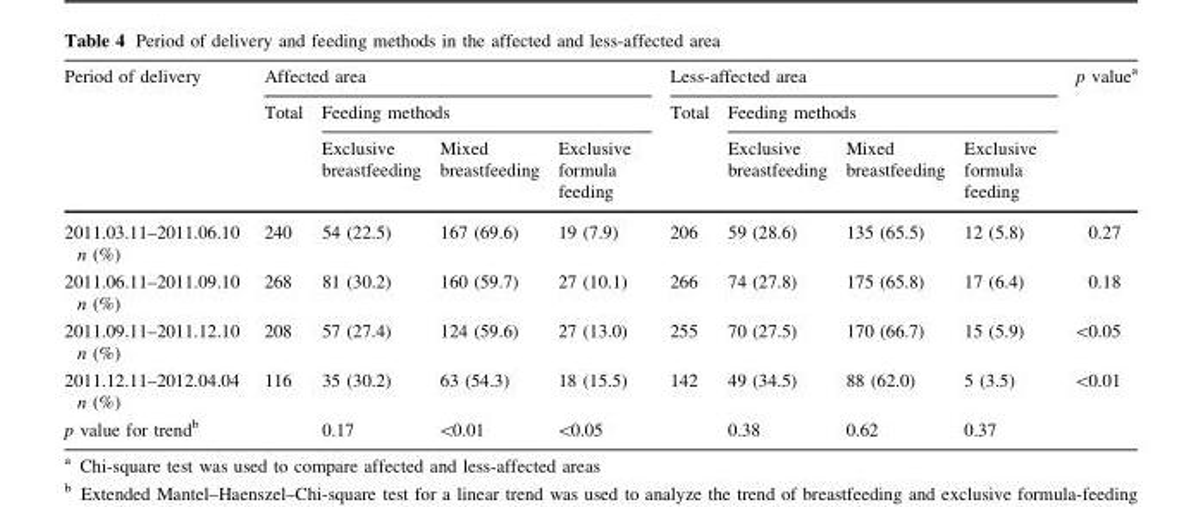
<table><thead><tr><td rowspan="3">Period of delivery</td><td colspan="4">Affected area</td><td colspan="4">Less-affected area</td><td rowspan="3">p value<sup>a</sup></td></tr><tr><td rowspan="2">Total</td><td colspan="3">Feeding methods</td><td rowspan="2">Total</td><td colspan="3">Feeding methods</td></tr><tr><td>Exclusive breastfeeding</td><td>Mixed breastfeeding</td><td>Exclusive formula feeding</td><td>Exclusive breastfeeding</td><td>Mixed breastfeeding</td><td>Exclusive formula feeding</td></tr></thead><tbody><tr><td>2011.03.11–2011.06.10 n (%)</td><td>240</td><td>54 (22.5)</td><td>167 (69.6)</td><td>19 (7.9)</td><td>206</td><td>59 (28.6)</td><td>135 (65.5)</td><td>12 (5.8)</td><td>0.27</td></tr><tr><td>2011.06.11–2011.09.10 n (%)</td><td>268</td><td>81 (30.2)</td><td>160 (59.7)</td><td>27 (10.1)</td><td>266</td><td>74 (27.8)</td><td>175 (65.8)</td><td>17 (6.4)</td><td>0.18</td></tr><tr><td>2011.09.11–2011.12.10 n (%)</td><td>208</td><td>57 (27.4)</td><td>124 (59.6)</td><td>27 (13.0)</td><td>255</td><td>70 (27.5)</td><td>170 (66.7)</td><td>15 (5.9)</td><td>&lt;0.05</td></tr><tr><td>2011.12.11–2012.04.04 n (%)</td><td>116</td><td>35 (30.2)</td><td>63 (54.3)</td><td>18 (15.5)</td><td>142</td><td>49 (34.5)</td><td>88 (62.0)</td><td>5 (3.5)</td><td>&lt;0.01</td></tr><tr><td>p value for trend<sup>b</sup></td><td></td><td>0.17</td><td>&lt;0.01</td><td>&lt;0.05</td><td></td><td>0.38</td><td>0.62</td><td>0.37</td><td></td></tr></tbody></table>